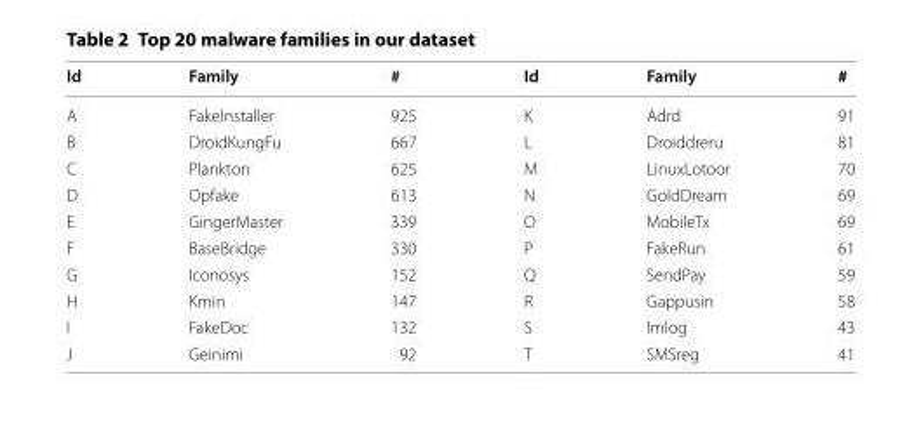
<table><thead><tr><td>Id</td><td>Family</td><td>#</td><td>Id</td><td>Family</td><td>#</td></tr></thead><tbody><tr><td>A</td><td>FakeInstaller</td><td>925</td><td>K</td><td>Adrd</td><td>91</td></tr><tr><td>B</td><td>DroidKungFu</td><td>667</td><td>L</td><td>Droiddreru</td><td>81</td></tr><tr><td>C</td><td>Plankton</td><td>625</td><td>M</td><td>LinuxLotoor</td><td>70</td></tr><tr><td>D</td><td>Opfake</td><td>613</td><td>N</td><td>GoldDream</td><td>69</td></tr><tr><td>E</td><td>GingerMaster</td><td>339</td><td>O</td><td>MobileTx</td><td>69</td></tr><tr><td>F</td><td>BaseBridge</td><td>330</td><td>P</td><td>FakeRun</td><td>61</td></tr><tr><td>G</td><td>Iconosys</td><td>152</td><td>Q</td><td>SendPay</td><td>59</td></tr><tr><td>H</td><td>Kmin</td><td>147</td><td>R</td><td>Gappusin</td><td>58</td></tr><tr><td>I</td><td>FakeDoc</td><td>132</td><td>S</td><td>Imlog</td><td>43</td></tr><tr><td>J</td><td>Geinimi</td><td>92</td><td>T</td><td>SMSreg</td><td>41</td></tr></tbody></table>